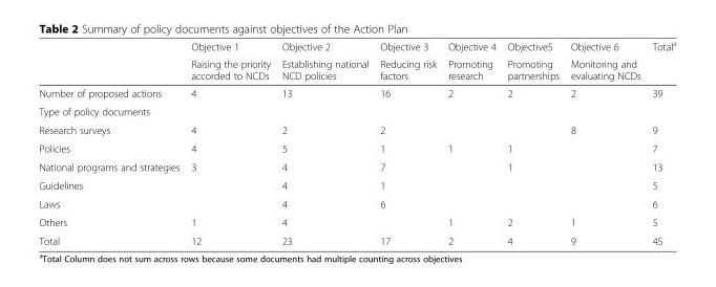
<table><thead><tr><td rowspan="2"></td><td rowspan="2">Objective 1 Raising the priority accorded to NCDs</td><td rowspan="2">Objective 2 Establishing national NCD policies</td><td rowspan="2">Objective 3 Reducing risk factors</td><td rowspan="2">Objective 4 Promoting research</td><td rowspan="2">Objective5 Promoting partnerships</td><td rowspan="2">Objective 6 Monitoring and evaluating NCDs</td><td rowspan="2">Total<sup>a</sup></td></tr><tr></tr></thead><tbody><tr><td>Number of proposed actions</td><td>4</td><td>13</td><td>16</td><td>2</td><td>2</td><td>2</td><td>39</td></tr><tr><td colspan="8">Type of policy documents</td></tr><tr><td>Research surveys</td><td>4</td><td>2</td><td>2</td><td></td><td></td><td>8</td><td>9</td></tr><tr><td>Policies</td><td>4</td><td>5</td><td>1</td><td>1</td><td>1</td><td></td><td>7</td></tr><tr><td>National programs and strategies</td><td>3</td><td>4</td><td>7</td><td></td><td>1</td><td></td><td>13</td></tr><tr><td>Guidelines</td><td></td><td>4</td><td>1</td><td></td><td></td><td></td><td>5</td></tr><tr><td>Laws</td><td></td><td>4</td><td>6</td><td></td><td></td><td></td><td>6</td></tr><tr><td>Others</td><td>1</td><td>4</td><td></td><td>1</td><td>2</td><td>1</td><td>5</td></tr><tr><td>Total</td><td>12</td><td>23</td><td>17</td><td>2</td><td>4</td><td>9</td><td>45</td></tr></tbody></table>